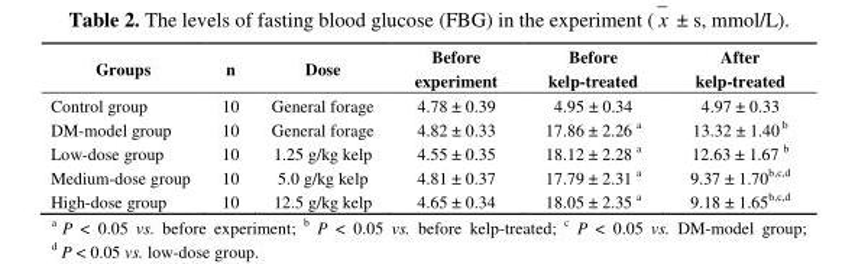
<table><thead><tr><td>Groups</td><td>n</td><td>Dose</td><td>Before experiment</td><td>Before kelp-treated</td><td>After kelp-treated</td></tr></thead><tbody><tr><td>Control group</td><td>10</td><td>General forage</td><td>4.78 ± 0.39</td><td>4.95 ± 0.34</td><td>4.97 ± 0.33</td></tr><tr><td>DM-model group</td><td>10</td><td>General forage</td><td>4.82 ± 0.33</td><td>17.86 ± 2.26 a</td><td>13.32 ± 1.40 b</td></tr><tr><td>Low-dose group</td><td>10</td><td>1.25 g/kg kelp</td><td>4.55 ± 0.35</td><td>18.12 ± 2.28 a</td><td>12.63 ± 1.67 b</td></tr><tr><td>Medium-dose group</td><td>10</td><td>5.0 g/kg kelp</td><td>4.81 ± 0.37</td><td>17.79 ± 2.31 a</td><td>9.37 ± 1.70<sup>b</sup>,<sup>c</sup>,<sup>d</sup></td></tr><tr><td>High-dose group</td><td>10</td><td>12.5 g/kg kelp</td><td>4.65 ± 0.34</td><td>18.05 ± 2.35 a</td><td>9.18 ± 1.65<sup>b</sup>,<sup>c</sup>,<sup>d</sup></td></tr></tbody></table>